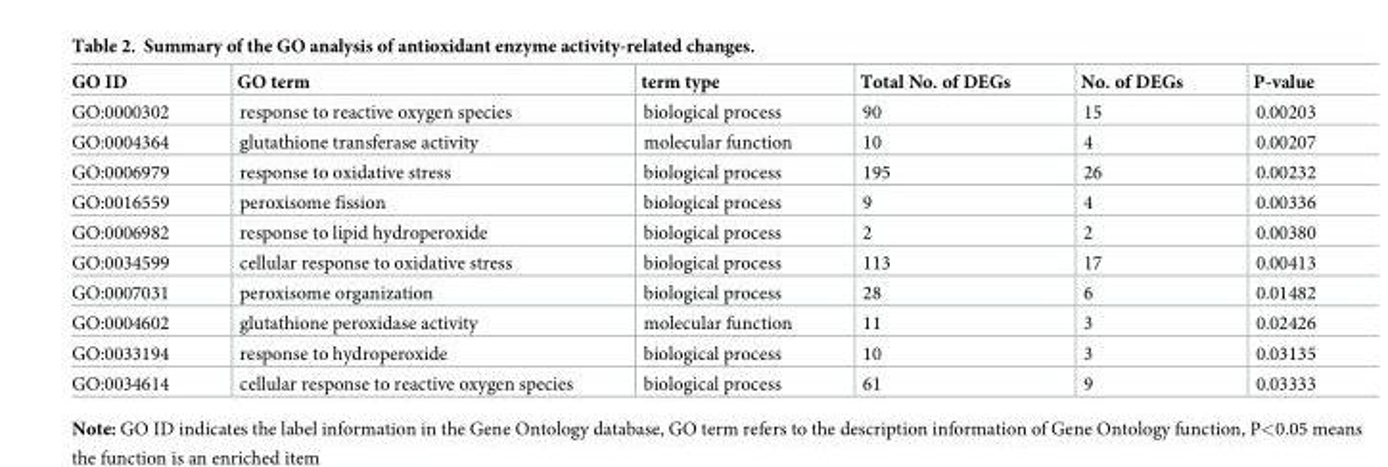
<table><thead><tr><td>GO ID</td><td>GO term</td><td>term type</td><td>Total No. of DEGs</td><td>No. of DEGs</td><td>P-value</td></tr></thead><tbody><tr><td>GO:0000302</td><td>response to reactive oxygen species</td><td>biological process</td><td>90</td><td>15</td><td>0.00203</td></tr><tr><td>GO:0004364</td><td>glutathione transferase activity</td><td>molecular function</td><td>10</td><td>4</td><td>0.00207</td></tr><tr><td>GO:0006979</td><td>response to oxidative stress</td><td>biological process</td><td>195</td><td>26</td><td>0.00232</td></tr><tr><td>GO:0016559</td><td>peroxisome fission</td><td>biological process</td><td>9</td><td>4</td><td>0.00336</td></tr><tr><td>GO:0006982</td><td>response to lipid hydroperoxide</td><td>biological process</td><td>2</td><td>2</td><td>0.00380</td></tr><tr><td>GO:0034599</td><td>cellular response to oxidative stress</td><td>biological process</td><td>113</td><td>17</td><td>0.00413</td></tr><tr><td>GO:0007031</td><td>peroxisome organization</td><td>biological process</td><td>28</td><td>6</td><td>0.01482</td></tr><tr><td>GO:0004602</td><td>glutathione peroxidase activity</td><td>molecular function</td><td>11</td><td>3</td><td>0.02426</td></tr><tr><td>GO:0033194</td><td>response to hydroperoxide</td><td>biological process</td><td>10</td><td>3</td><td>0.03135</td></tr><tr><td>GO:0034614</td><td>cellular response to reactive oxygen species</td><td>biological process</td><td>61</td><td>9</td><td>0.03333</td></tr></tbody></table>